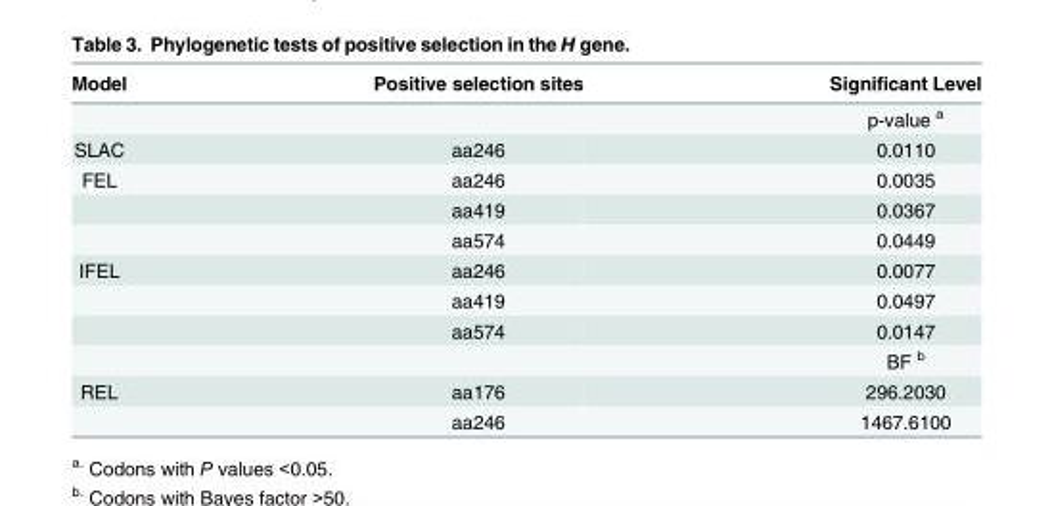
<table><thead><tr><td>Model</td><td>Positive selection sites</td><td>Significant Level</td></tr></thead><tbody><tr><td></td><td></td><td>p-value <sup>a</sup></td></tr><tr><td>SLAC</td><td>aa246</td><td>0.0110</td></tr><tr><td rowspan="3">FEL</td><td>aa246</td><td>0.0035</td></tr><tr><td>aa419</td><td>0.0367</td></tr><tr><td>aa574</td><td>0.0449</td></tr><tr><td rowspan="4">IFEL</td><td>aa246</td><td>0.0077</td></tr><tr><td>aa419</td><td>0.0497</td></tr><tr><td>aa574</td><td>0.0147</td></tr><tr><td></td><td>BF <sup>b</sup></td></tr><tr><td rowspan="2">REL</td><td>aa176</td><td>296.2030</td></tr><tr><td>aa246</td><td>1467.6100</td></tr></tbody></table>